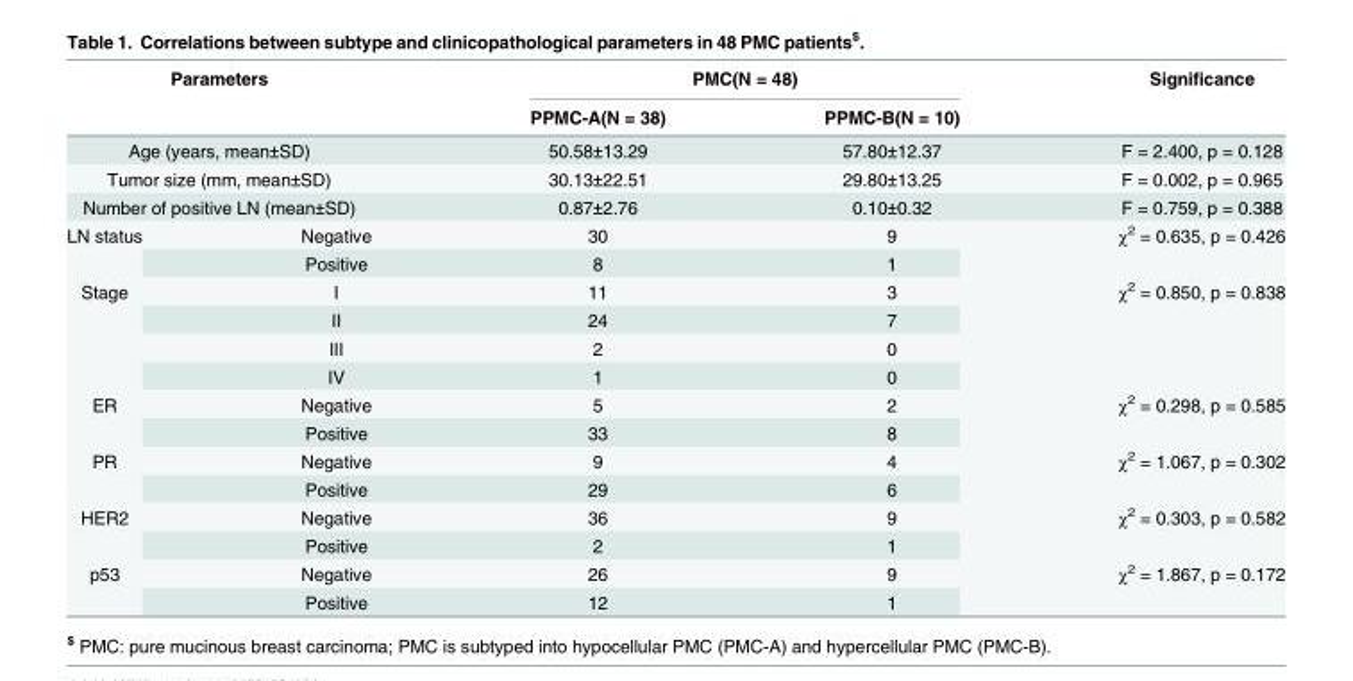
<table><thead><tr><td rowspan="2" colspan="2">Parameters</td><td colspan="2">PMC(N = 48)</td><td rowspan="2">Significance</td></tr><tr><td>PPMC-A(N = 38)</td><td>PPMC-B(N = 10)</td></tr></thead><tbody><tr><td colspan="2">Age (years, mean±SD)</td><td>50.58±13.29</td><td>57.80±12.37</td><td>F = 2.400, p = 0.128</td></tr><tr><td colspan="2">Tumor size (mm, mean±SD)</td><td>30.13±22.51</td><td>29.80±13.25</td><td>F = 0.002, p = 0.965</td></tr><tr><td colspan="2">Number of positive LN (mean±SD)</td><td>0.87±2.76</td><td>0.10±0.32</td><td>F = 0.759, p = 0.388</td></tr><tr><td rowspan="2">LN status</td><td>Negative</td><td>30</td><td>9</td><td rowspan="2">χ<sup>2</sup> = 0.635, p = 0.426</td></tr><tr><td>Positive</td><td>8</td><td>1</td></tr><tr><td rowspan="4">Stage</td><td>I</td><td>11</td><td>3</td><td rowspan="4">χ<sup>2</sup> = 0.850, p = 0.838</td></tr><tr><td>II</td><td>24</td><td>7</td></tr><tr><td>III</td><td>2</td><td>0</td></tr><tr><td>IV</td><td>1</td><td>0</td></tr><tr><td rowspan="2">ER</td><td>Negative</td><td>5</td><td>2</td><td rowspan="2">χ<sup>2</sup> = 0.298, p = 0.585</td></tr><tr><td>Positive</td><td>33</td><td>8</td></tr><tr><td rowspan="2">PR</td><td>Negative</td><td>9</td><td>4</td><td rowspan="2">χ<sup>2</sup> = 1.067, p = 0.302</td></tr><tr><td>Positive</td><td>29</td><td>6</td></tr><tr><td rowspan="2">HER2</td><td>Negative</td><td>36</td><td>9</td><td rowspan="2">χ<sup>2</sup> = 0.303, p = 0.582</td></tr><tr><td>Positive</td><td>2</td><td>1</td></tr><tr><td rowspan="2">p53</td><td>Negative</td><td>26</td><td>9</td><td rowspan="2">χ<sup>2</sup> = 1.867, p = 0.172</td></tr><tr><td>Positive</td><td>12</td><td>1</td></tr></tbody></table>